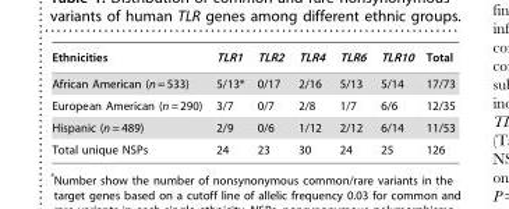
<table><thead><tr><td>Ethnicities</td><td>TLR1</td><td>TLR2</td><td>TLR4</td><td>TLR6</td><td>TLR10</td><td>Total</td></tr></thead><tbody><tr><td>African American (n = 533)</td><td>5/13*</td><td>0/17</td><td>2/16</td><td>5/13</td><td>5/14</td><td>17/73</td></tr><tr><td>European American (n = 290)</td><td>3/7</td><td>0/7</td><td>2/8</td><td>1/7</td><td>6/6</td><td>12/35</td></tr><tr><td>Hispanic (n = 489)</td><td>2/9</td><td>0/6</td><td>1/12</td><td>2/12</td><td>6/14</td><td>11/53</td></tr><tr><td>Total unique NSPs</td><td>24</td><td>23</td><td>30</td><td>24</td><td>25</td><td>126</td></tr></tbody></table>